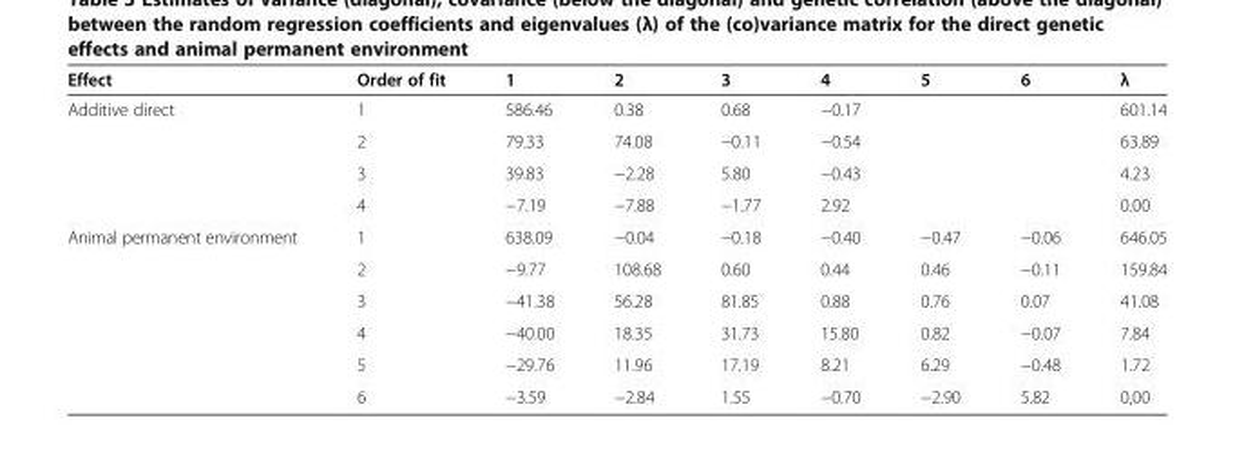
<table><thead><tr><td>Effect</td><td>Order of fit</td><td>1</td><td>2</td><td>3</td><td>4</td><td>5</td><td>6</td><td>λ</td></tr></thead><tbody><tr><td rowspan="4">Additive direct</td><td>1</td><td>586.46</td><td>0.38</td><td>0.68</td><td>−0.17</td><td></td><td></td><td>601.14</td></tr><tr><td>2</td><td>79.33</td><td>74.08</td><td>−0.11</td><td>−0.54</td><td></td><td></td><td>63.89</td></tr><tr><td>3</td><td>39.83</td><td>−2.28</td><td>5.80</td><td>−0.43</td><td></td><td></td><td>4.23</td></tr><tr><td>4</td><td>−7.19</td><td>−7.88</td><td>−1.77</td><td>2.92</td><td></td><td></td><td>0.00</td></tr><tr><td rowspan="6">Animal permanent environment</td><td>1</td><td>638.09</td><td>−0.04</td><td>−0.18</td><td>−0.40</td><td>−0.47</td><td>−0.06</td><td>646.05</td></tr><tr><td>2</td><td>−9.77</td><td>108.68</td><td>0.60</td><td>0.44</td><td>0.46</td><td>−0.11</td><td>159.84</td></tr><tr><td>3</td><td>−41.38</td><td>56.28</td><td>81.85</td><td>0.88</td><td>0.76</td><td>0.07</td><td>41.08</td></tr><tr><td>4</td><td>−40.00</td><td>18.35</td><td>31.73</td><td>15.80</td><td>0.82</td><td>−0.07</td><td>7.84</td></tr><tr><td>5</td><td>−29.76</td><td>11.96</td><td>17.19</td><td>8.21</td><td>6.29</td><td>−0.48</td><td>1.72</td></tr><tr><td>6</td><td>−3.59</td><td>−2.84</td><td>1.55</td><td>−0.70</td><td>−2.90</td><td>5.82</td><td>0,00</td></tr></tbody></table>